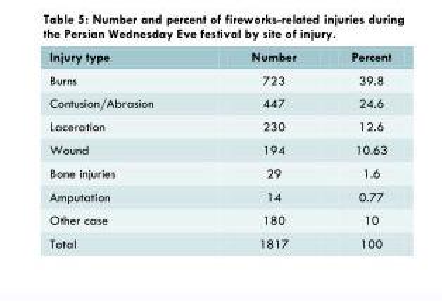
<table><thead><tr><td>Injury type</td><td>Number</td><td>Percent</td></tr></thead><tbody><tr><td>Burns</td><td>723</td><td>39.8</td></tr><tr><td>Contusion/Abrasion</td><td>447</td><td>24.6</td></tr><tr><td>Laceration</td><td>230</td><td>12.6</td></tr><tr><td>Wound</td><td>194</td><td>10.63</td></tr><tr><td>Bone injuries</td><td>29</td><td>1.6</td></tr><tr><td>Amputation</td><td>14</td><td>0.77</td></tr><tr><td>Other case</td><td>180</td><td>10</td></tr><tr><td>Total</td><td>1817</td><td>100</td></tr></tbody></table>